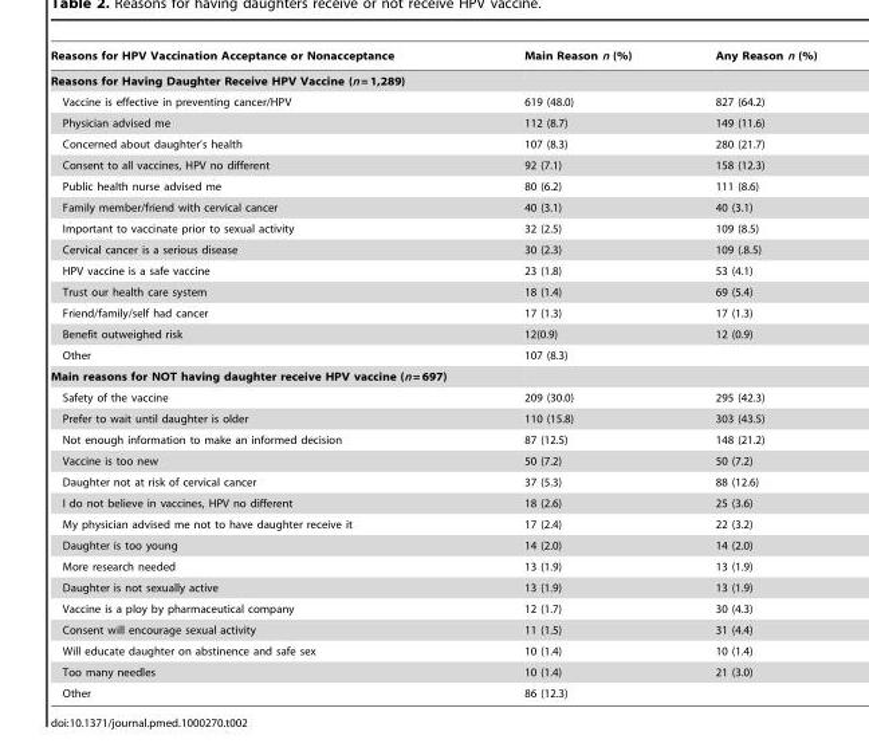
<table><thead><tr><td>Reasons for HPV Vaccination Acceptance or Nonacceptance</td><td>Main Reason n (%)</td><td>Any Reason n (%)</td></tr></thead><tbody><tr><td colspan="3">Reasons for Having Daughter Receive HPV Vaccine (n = 1,289)</td></tr><tr><td>Vaccine is effective in preventing cancer/HPV</td><td>619 (48.0)</td><td>827 (64.2)</td></tr><tr><td>Physician advised me</td><td>112 (8.7)</td><td>149 (11.6)</td></tr><tr><td>Concerned about daughter’s health</td><td>107 (8.3)</td><td>280 (21.7)</td></tr><tr><td>Consent to all vaccines, HPV no different</td><td>92 (7.1)</td><td>158 (12.3)</td></tr><tr><td>Public health nurse advised me</td><td>80 (6.2)</td><td>111 (8.6)</td></tr><tr><td>Family member/friend with cervical cancer</td><td>40 (3.1)</td><td>40 (3.1)</td></tr><tr><td>Important to vaccinate prior to sexual activity</td><td>32 (2.5)</td><td>109 (8.5)</td></tr><tr><td>Cervical cancer is a serious disease</td><td>30 (2.3)</td><td>109 (.8.5)</td></tr><tr><td>HPV vaccine is a safe vaccine</td><td>23 (1.8)</td><td>53 (4.1)</td></tr><tr><td>Trust our health care system</td><td>18 (1.4)</td><td>69 (5.4)</td></tr><tr><td>Friend/family/self had cancer</td><td>17 (1.3)</td><td>17 (1.3)</td></tr><tr><td>Benefit outweighed risk</td><td>12(0.9)</td><td>12 (0.9)</td></tr><tr><td>Other</td><td>107 (8.3)</td><td></td></tr><tr><td colspan="3">Main reasons for NOT having daughter receive HPV vaccine (n = 697)</td></tr><tr><td>Safety of the vaccine</td><td>209 (30.0)</td><td>295 (42.3)</td></tr><tr><td>Prefer to wait until daughter is older</td><td>110 (15.8)</td><td>303 (43.5)</td></tr><tr><td>Not enough information to make an informed decision</td><td>87 (12.5)</td><td>148 (21.2)</td></tr><tr><td>Vaccine is too new</td><td>50 (7.2)</td><td>50 (7.2)</td></tr><tr><td>Daughter not at risk of cervical cancer</td><td>37 (5.3)</td><td>88 (12.6)</td></tr><tr><td>I do not believe in vaccines, HPV no different</td><td>18 (2.6)</td><td>25 (3.6)</td></tr><tr><td>My physician advised me not to have daughter receive it</td><td>17 (2.4)</td><td>22 (3.2)</td></tr><tr><td>Daughter is too young</td><td>14 (2.0)</td><td>14 (2.0)</td></tr><tr><td>More research needed</td><td>13 (1.9)</td><td>13 (1.9)</td></tr><tr><td>Daughter is not sexually active</td><td>13 (1.9)</td><td>13 (1.9)</td></tr><tr><td>Vaccine is a ploy by pharmaceutical company</td><td>12 (1.7)</td><td>30 (4.3)</td></tr><tr><td>Consent will encourage sexual activity</td><td>11 (1.5)</td><td>31 (4.4)</td></tr><tr><td>Will educate daughter on abstinence and safe sex</td><td>10 (1.4)</td><td>10 (1.4)</td></tr><tr><td>Too many needles</td><td>10 (1.4)</td><td>21 (3.0)</td></tr><tr><td>Other</td><td>86 (12.3)</td><td></td></tr></tbody></table>